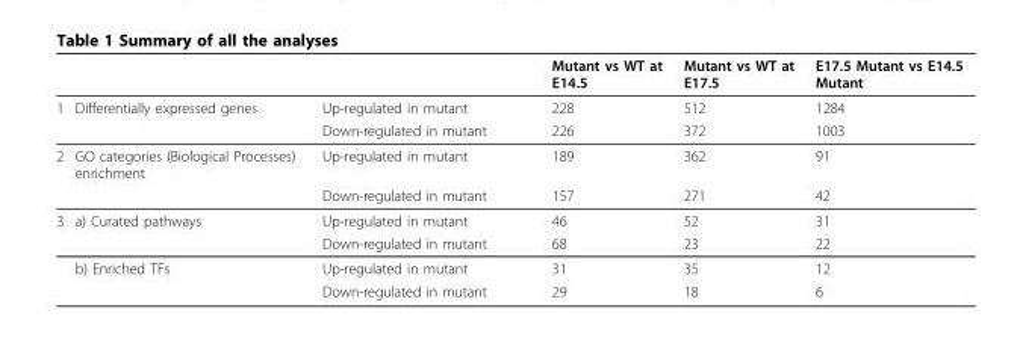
<table><thead><tr><td></td><td></td><td></td><td>Mutant vs WT at E14.5</td><td>Mutant vs WT at E17.5</td><td>E17.5 Mutant vs E14.5 Mutant</td></tr></thead><tbody><tr><td rowspan="2">1</td><td>Differentially expressed genes</td><td>Up-regulated in mutant</td><td>228</td><td>512</td><td>1284</td></tr><tr><td></td><td>Down-regulated in mutant</td><td>226</td><td>372</td><td>1003</td></tr><tr><td rowspan="2">2</td><td>GO categories (Biological Processes) enrichment</td><td>Up-regulated in mutant</td><td>189</td><td>362</td><td>91</td></tr><tr><td></td><td>Down-regulated in mutant</td><td>157</td><td>271</td><td>42</td></tr><tr><td rowspan="4">3</td><td>a) Curated pathways</td><td>Up-regulated in mutant</td><td>46</td><td>52</td><td>31</td></tr><tr><td></td><td>Down-regulated in mutant</td><td>68</td><td>23</td><td>22</td></tr><tr><td>b) Enriched TFs</td><td>Up-regulated in mutant</td><td>31</td><td>35</td><td>12</td></tr><tr><td></td><td>Down-regulated in mutant</td><td>29</td><td>18</td><td>6</td></tr></tbody></table>